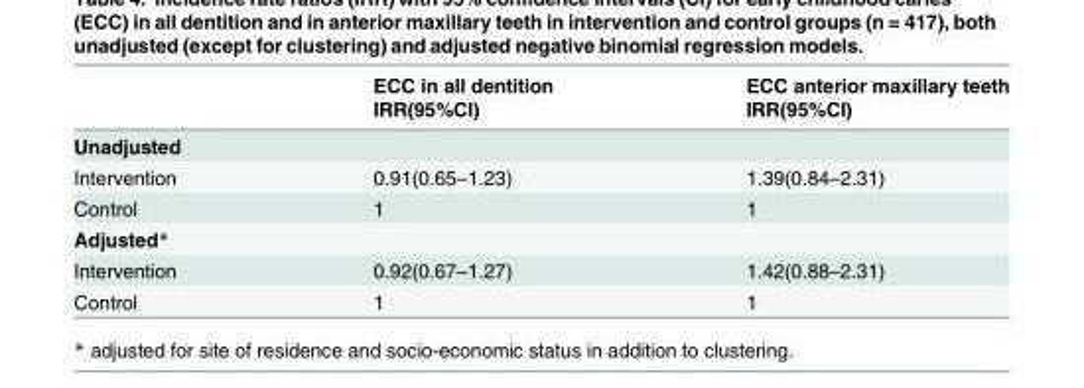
<table><thead><tr><td rowspan="2"></td><td rowspan="2">ECC in all dentition IRR(95%CI)</td><td rowspan="2">ECC anterior maxillary teeth IRR(95%CI)</td></tr><tr></tr></thead><tbody><tr><td colspan="3">Unadjusted</td></tr><tr><td>Intervention</td><td>0.91(0.65–1.23)</td><td>1.39(0.84–2.31)</td></tr><tr><td>Control</td><td>1</td><td>1</td></tr><tr><td colspan="3">Adjusted*</td></tr><tr><td>Intervention</td><td>0.92(0.67–1.27)</td><td>1.42(0.88–2.31)</td></tr><tr><td>Control</td><td>1</td><td>1</td></tr></tbody></table>